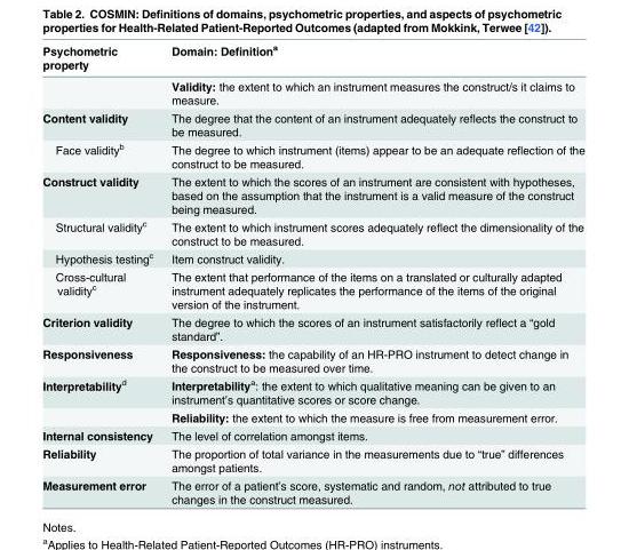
<table><thead><tr><td>Psychometric property</td><td>Domain: Definition<sup>a</sup></td></tr></thead><tbody><tr><td></td><td>Validity: the extent to which an instrument measures the construct/s it claims to measure.</td></tr><tr><td>Content validity</td><td>The degree that the content of an instrument adequately reflects the construct to be measured.</td></tr><tr><td>Face validity<sup>b</sup></td><td>The degree to which instrument (items) appear to be an adequate reflection of the construct to be measured.</td></tr><tr><td>Construct validity</td><td>The extent to which the scores of an instrument are consistent with hypotheses, based on the assumption that the instrument is a valid measure of the construct being measured.</td></tr><tr><td>Structural validity<sup>c</sup></td><td>The extent to which instrument scores adequately reflect the dimensionality of the construct to be measured.</td></tr><tr><td>Hypothesis testing<sup>c</sup></td><td>Item construct validity.</td></tr><tr><td>Cross-cultural validity<sup>c</sup></td><td>The extent that performance of the items on a translated or culturally adapted instrument adequately replicates the performance of the items of the original version of the instrument.</td></tr><tr><td>Criterion validity</td><td>The degree to which the scores of an instrument satisfactorily reflect a “gold standard”.</td></tr><tr><td>Responsiveness</td><td>Responsiveness: the capability of an HR-PRO instrument to detect change in the construct to be measured over time.</td></tr><tr><td rowspan="2">Interpretability<sup>d</sup></td><td>Interpretability<sup>a</sup>: the extent to which qualitative meaning can be given to an instrument’s quantitative scores or score change.</td></tr><tr><td>Reliability: the extent to which the measure is free from measurement error.</td></tr><tr><td>Internal consistency</td><td>The level of correlation amongst items.</td></tr><tr><td>Reliability</td><td>The proportion of total variance in the measurements due to “true” differences amongst patients.</td></tr><tr><td>Measurement error</td><td>The error of a patient’s score, systematic and random, not attributed to true changes in the construct measured.</td></tr></tbody></table>